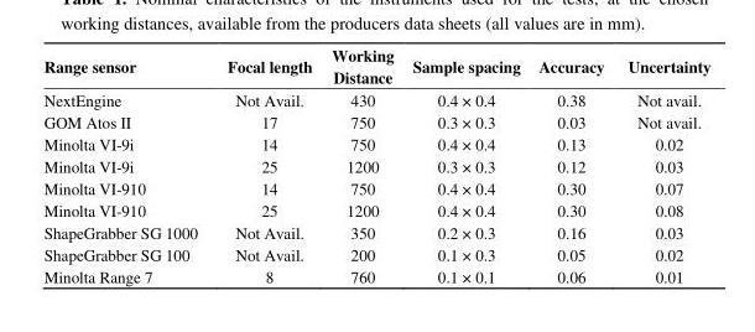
<table><thead><tr><td>Range sensor</td><td>Focal length</td><td>Working Distance</td><td>Sample spacing</td><td>Accuracy</td><td>Uncertainty</td></tr></thead><tbody><tr><td>NextEngine</td><td>Not Avail.</td><td>430</td><td>0.4 × 0.4</td><td>0.38</td><td>Not avail.</td></tr><tr><td>GOM Atos II</td><td>17</td><td>750</td><td>0.3 × 0.3</td><td>0.03</td><td>Not avail.</td></tr><tr><td>Minolta VI-9i</td><td>14</td><td>750</td><td>0.4 × 0.4</td><td>0.13</td><td>0.02</td></tr><tr><td>Minolta VI-9i</td><td>25</td><td>1200</td><td>0.3 × 0.3</td><td>0.12</td><td>0.03</td></tr><tr><td>Minolta VI-910</td><td>14</td><td>750</td><td>0.4 × 0.4</td><td>0.30</td><td>0.07</td></tr><tr><td>Minolta VI-910</td><td>25</td><td>1200</td><td>0.4 × 0.4</td><td>0.30</td><td>0.08</td></tr><tr><td>ShapeGrabber SG 1000</td><td>Not Avail.</td><td>350</td><td>0.2 × 0.3</td><td>0.16</td><td>0.03</td></tr><tr><td>ShapeGrabber SG 100</td><td>Not Avail.</td><td>200</td><td>0.1 × 0.3</td><td>0.05</td><td>0.02</td></tr><tr><td>Minolta Range 7</td><td>8</td><td>760</td><td>0.1 × 0.1</td><td>0.06</td><td>0.01</td></tr></tbody></table>